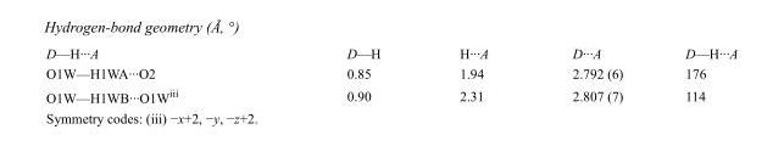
<table><tbody><tr><td>D—H···A</td><td>D—H</td><td>H···A</td><td>D···A</td><td>D—H···A</td></tr><tr><td>O1W—H1WA···O2</td><td>0.85</td><td>1.94</td><td>2.792 (6)</td><td>176</td></tr><tr><td>O1W—H1WB···O1W<sup>iii</sup></td><td>0.90</td><td>2.31</td><td>2.807 (7)</td><td>114</td></tr></tbody></table>